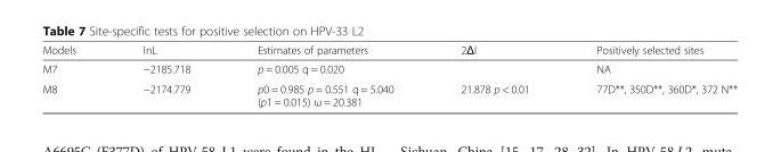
<table><thead><tr><td>Models</td><td>InL</td><td>Estimates of parameters</td><td>2Δl</td><td>Positively selected sites</td></tr></thead><tbody><tr><td>M7</td><td>−2185.718</td><td>p = 0.005 q = 0.020</td><td></td><td>NA</td></tr><tr><td>M8</td><td>−2174.779</td><td>p0 = 0.985 p = 0.551 q = 5.040 (p1 = 0.015) ω = 20.381</td><td>21.878 p &lt; 0.01</td><td>77D**, 350D**, 360D*, 372 N**</td></tr></tbody></table>